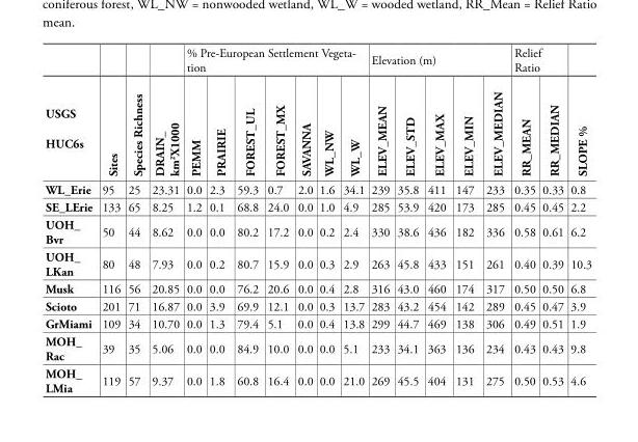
<table><thead><tr><td rowspan="2">USGS HUC6s</td><td rowspan="2">Sites</td><td rowspan="2">Species Richness</td><td rowspan="2">DRAIN_ km2X1000</td><td colspan="7">% Pre-European Settlement Vegeta- tion</td><td colspan="5">Elevation (m)</td><td colspan="2">Relief Ratio</td><td rowspan="2">SLOPE %</td></tr><tr><td>PEMM</td><td>PRAIRIE</td><td>FOREST_UL</td><td>FOREST_MX</td><td>SAVANNA</td><td>WL_NW</td><td>WL_W</td><td>ELEV_MEAN</td><td>ELEV_STD</td><td>ELEV_MAX</td><td>ELEV_MIN</td><td>ELEV_MEDIAN</td><td>RR_MEAN</td><td>RR_MEDIAN</td></tr></thead><tbody><tr><td>WL_Erie</td><td>95</td><td>25</td><td>23.31</td><td>0.0</td><td>2.3</td><td>59.3</td><td>0.7</td><td>2.0</td><td>1.6</td><td>34.1</td><td>239</td><td>35.8</td><td>411</td><td>147</td><td>233</td><td>0.35</td><td>0.33</td><td>0.8</td></tr><tr><td>SE_LErie</td><td>133</td><td>65</td><td>8.25</td><td>1.2</td><td>0.1</td><td>68.8</td><td>24.0</td><td>0.0</td><td>1.0</td><td>4.9</td><td>285</td><td>53.9</td><td>420</td><td>173</td><td>285</td><td>0.45</td><td>0.45</td><td>2.2</td></tr><tr><td>UOH_ Bvr</td><td>50</td><td>44</td><td>8.62</td><td>0.0</td><td>0.0</td><td>80.2</td><td>17.2</td><td>0.0</td><td>0.2</td><td>2.4</td><td>330</td><td>38.6</td><td>436</td><td>182</td><td>336</td><td>0.58</td><td>0.61</td><td>6.2</td></tr><tr><td>UOH_ LKan</td><td>80</td><td>48</td><td>7.93</td><td>0.0</td><td>0.2</td><td>80.7</td><td>15.9</td><td>0.0</td><td>0.3</td><td>2.9</td><td>263</td><td>45.8</td><td>433</td><td>151</td><td>261</td><td>0.40</td><td>0.39</td><td>10.3</td></tr><tr><td>Musk</td><td>116</td><td>56</td><td>20.85</td><td>0.0</td><td>0.0</td><td>76.2</td><td>20.6</td><td>0.0</td><td>0.4</td><td>2.8</td><td>316</td><td>43.0</td><td>460</td><td>174</td><td>317</td><td>0.50</td><td>0.50</td><td>6.8</td></tr><tr><td>Scioto</td><td>201</td><td>71</td><td>16.87</td><td>0.0</td><td>3.9</td><td>69.9</td><td>12.1</td><td>0.0</td><td>0.3</td><td>13.7</td><td>283</td><td>43.2</td><td>454</td><td>142</td><td>289</td><td>0.45</td><td>0.47</td><td>3.9</td></tr><tr><td>GrMiami</td><td>109</td><td>34</td><td>10.70</td><td>0.0</td><td>1.3</td><td>79.4</td><td>5.1</td><td>0.0</td><td>0.4</td><td>13.8</td><td>299</td><td>44.7</td><td>469</td><td>138</td><td>306</td><td>0.49</td><td>0.51</td><td>1.9</td></tr><tr><td>MOH_ Rac</td><td>39</td><td>35</td><td>5.06</td><td>0.0</td><td>0.0</td><td>84.9</td><td>10.0</td><td>0.0</td><td>0.0</td><td>5.1</td><td>233</td><td>34.1</td><td>363</td><td>136</td><td>234</td><td>0.43</td><td>0.43</td><td>9.8</td></tr><tr><td>MOH_ LMia</td><td>119</td><td>57</td><td>9.37</td><td>0.0</td><td>1.8</td><td>60.8</td><td>16.4</td><td>0.0</td><td>0.0</td><td>21.0</td><td>269</td><td>45.5</td><td>404</td><td>131</td><td>275</td><td>0.50</td><td>0.53</td><td>4.6</td></tr></tbody></table>